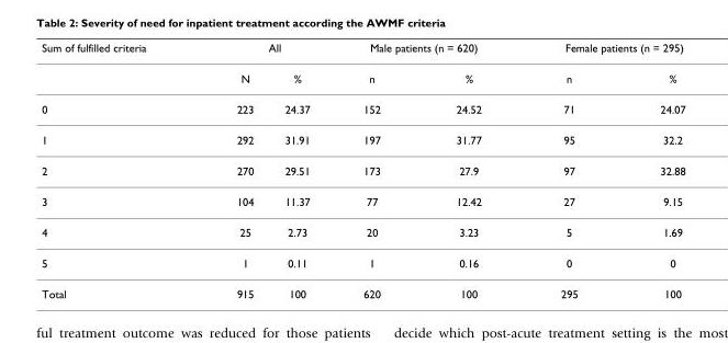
<table><thead><tr><td rowspan="2">Sum of fulfilled criteria</td><td colspan="2">All</td><td colspan="2">Male patients (n = 620)</td><td colspan="2">Female patients (n = 295)</td></tr><tr><td>N</td><td>%</td><td>n</td><td>%</td><td>n</td><td>%</td></tr></thead><tbody><tr><td>0</td><td>223</td><td>24.37</td><td>152</td><td>24.52</td><td>71</td><td>24.07</td></tr><tr><td>1</td><td>292</td><td>31.91</td><td>197</td><td>31.77</td><td>95</td><td>32.2</td></tr><tr><td>2</td><td>270</td><td>29.51</td><td>173</td><td>27.9</td><td>97</td><td>32.88</td></tr><tr><td>3</td><td>104</td><td>11.37</td><td>77</td><td>12.42</td><td>27</td><td>9.15</td></tr><tr><td>4</td><td>25</td><td>2.73</td><td>20</td><td>3.23</td><td>5</td><td>1.69</td></tr><tr><td>5</td><td>1</td><td>0.11</td><td>1</td><td>0.16</td><td>0</td><td>0</td></tr><tr><td>Total</td><td>915</td><td>100</td><td>620</td><td>100</td><td>295</td><td>100</td></tr></tbody></table>